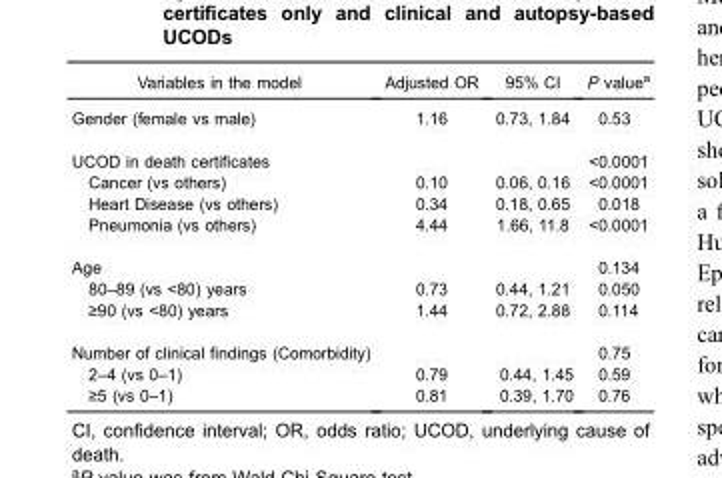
<table><thead><tr><td>Variables in the model</td><td>Adjusted OR</td><td>95% CI</td><td>P value<sup>a</sup></td></tr></thead><tbody><tr><td>Gender (female vs male)</td><td>1.16</td><td>0.73, 1.84</td><td>0.53</td></tr><tr><td>UCOD in death certificates</td><td></td><td></td><td>&lt;0.0001</td></tr><tr><td>Cancer (vs others)</td><td>0.10</td><td>0.06, 0.16</td><td>&lt;0.0001</td></tr><tr><td>Heart Disease (vs others)</td><td>0.34</td><td>0.18, 0.65</td><td>0.018</td></tr><tr><td>Pneumonia (vs others)</td><td>4.44</td><td>1.66, 11.8</td><td>&lt;0.0001</td></tr><tr><td>Age</td><td></td><td></td><td>0.134</td></tr><tr><td>80–89 (vs &lt;80) years</td><td>0.73</td><td>0.44, 1.21</td><td>0.050</td></tr><tr><td>≥90 (vs &lt;80) years</td><td>1.44</td><td>0.72, 2.88</td><td>0.114</td></tr><tr><td>Number of clinical findings (Comorbidity)</td><td></td><td></td><td>0.75</td></tr><tr><td>2–4 (vs 0–1)</td><td>0.79</td><td>0.44, 1.45</td><td>0.59</td></tr><tr><td>≥5 (vs 0–1)</td><td>0.81</td><td>0.39, 1.70</td><td>0.76</td></tr></tbody></table>